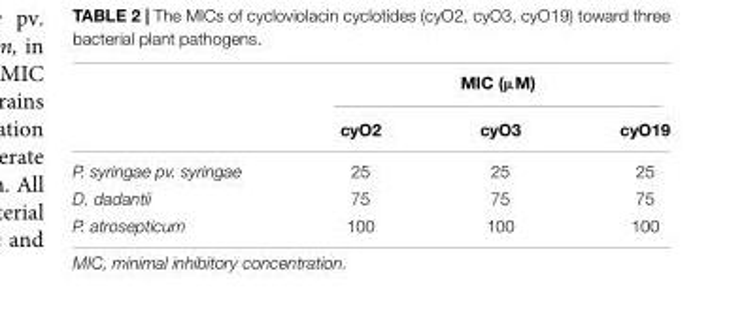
<table><thead><tr><td rowspan="2"></td><td colspan="3">MIC (µM)</td></tr><tr><td>cyO2</td><td>cyO3</td><td>cyO19</td></tr></thead><tbody><tr><td>P. syringae pv. syringae</td><td>25</td><td>25</td><td>25</td></tr><tr><td>D. dadantii</td><td>75</td><td>75</td><td>75</td></tr><tr><td>P. atrosepticum</td><td>100</td><td>100</td><td>100</td></tr></tbody></table>